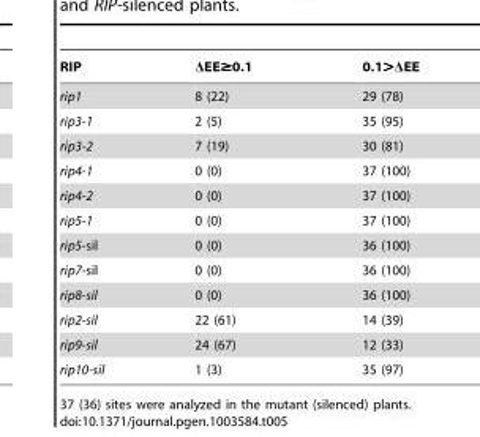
<table><thead><tr><td>RIP</td><td>ΔEE≥0.1</td><td>0.1&gt;ΔEE</td></tr></thead><tbody><tr><td>rip1</td><td>8 (22)</td><td>29 (78)</td></tr><tr><td>rip3-1</td><td>2 (5)</td><td>35 (95)</td></tr><tr><td>rip3-2</td><td>7 (19)</td><td>30 (81)</td></tr><tr><td>rip4-1</td><td>0 (0)</td><td>37 (100)</td></tr><tr><td>rip4-2</td><td>0 (0)</td><td>37 (100)</td></tr><tr><td>rip5-1</td><td>0 (0)</td><td>37 (100)</td></tr><tr><td>rip5-sil</td><td>0 (0)</td><td>36 (100)</td></tr><tr><td>rip7-sil</td><td>0 (0)</td><td>36 (100)</td></tr><tr><td>rip8-sil</td><td>0 (0)</td><td>36 (100)</td></tr><tr><td>rip2-sil</td><td>22 (61)</td><td>14 (39)</td></tr><tr><td>rip9-sil</td><td>24 (67)</td><td>12 (33)</td></tr><tr><td>rip10-sil</td><td>1 (3)</td><td>35 (97)</td></tr></tbody></table>